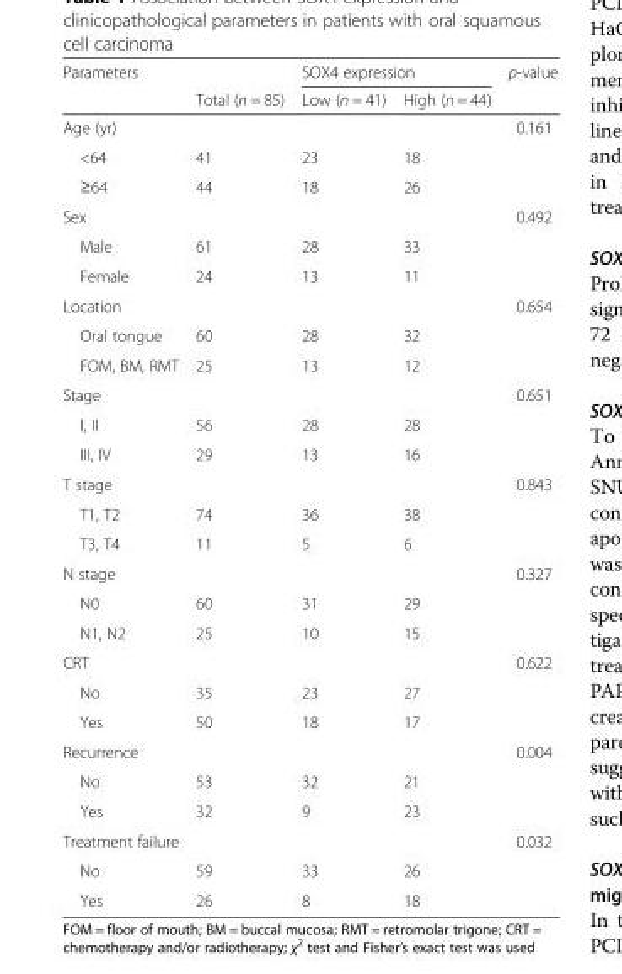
<table><thead><tr><td rowspan="2">Parameters</td><td rowspan="2">Total (n = 85)</td><td colspan="2">SOX4 expression</td><td rowspan="2">p-value</td></tr><tr><td>Low (n = 41)</td><td>High (n = 44)</td></tr></thead><tbody><tr><td>Age (yr)</td><td></td><td></td><td></td><td>0.161</td></tr><tr><td>&lt;64</td><td>41</td><td>23</td><td>18</td><td></td></tr><tr><td>≥64</td><td>44</td><td>18</td><td>26</td><td></td></tr><tr><td>Sex</td><td></td><td></td><td></td><td>0.492</td></tr><tr><td>Male</td><td>61</td><td>28</td><td>33</td><td></td></tr><tr><td>Female</td><td>24</td><td>13</td><td>11</td><td></td></tr><tr><td>Location</td><td></td><td></td><td></td><td>0.654</td></tr><tr><td>Oral tongue</td><td>60</td><td>28</td><td>32</td><td></td></tr><tr><td>FOM, BM, RMT</td><td>25</td><td>13</td><td>12</td><td></td></tr><tr><td>Stage</td><td></td><td></td><td></td><td>0.651</td></tr><tr><td>I, II</td><td>56</td><td>28</td><td>28</td><td></td></tr><tr><td>III, IV</td><td>29</td><td>13</td><td>16</td><td></td></tr><tr><td>T stage</td><td></td><td></td><td></td><td>0.843</td></tr><tr><td>T1, T2</td><td>74</td><td>36</td><td>38</td><td></td></tr><tr><td>T3, T4</td><td>11</td><td>5</td><td>6</td><td></td></tr><tr><td>N stage</td><td></td><td></td><td></td><td>0.327</td></tr><tr><td>N0</td><td>60</td><td>31</td><td>29</td><td></td></tr><tr><td>N1, N2</td><td>25</td><td>10</td><td>15</td><td></td></tr><tr><td>CRT</td><td></td><td></td><td></td><td>0.622</td></tr><tr><td>No</td><td>35</td><td>23</td><td>27</td><td></td></tr><tr><td>Yes</td><td>50</td><td>18</td><td>17</td><td></td></tr><tr><td>Recurrence</td><td></td><td></td><td></td><td>0.004</td></tr><tr><td>No</td><td>53</td><td>32</td><td>21</td><td></td></tr><tr><td>Yes</td><td>32</td><td>9</td><td>23</td><td></td></tr><tr><td>Treatment failure</td><td></td><td></td><td></td><td>0.032</td></tr><tr><td>No</td><td>59</td><td>33</td><td>26</td><td></td></tr><tr><td>Yes</td><td>26</td><td>8</td><td>18</td><td></td></tr></tbody></table>